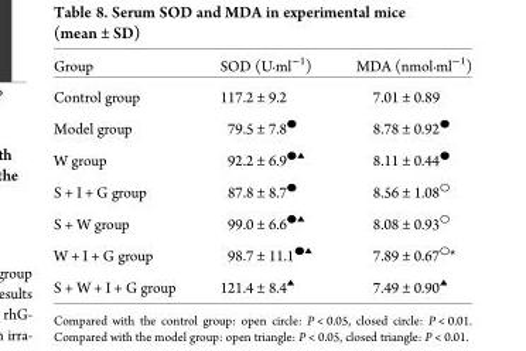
<table><thead><tr><td>Group</td><td>SOD (U·ml<sup>−1</sup>)</td><td>MDA (nmol·ml<sup>−1</sup>)</td></tr></thead><tbody><tr><td>Control group</td><td>117.2 ± 9.2</td><td>7.01 ± 0.89</td></tr><tr><td>Model group</td><td>79.5 ± 7.8<sup>●</sup></td><td>8.78 ± 0.92<sup>●</sup></td></tr><tr><td>W group</td><td>92.2 ± 6.9●▴</td><td>8.11 ± 0.44<sup>●</sup></td></tr><tr><td>S + I + G group</td><td>87.8 ± 8.7<sup>●</sup></td><td>8.56 ± 1.08<sup>○</sup></td></tr><tr><td>S + W group</td><td>99.0 ± 6.6●▴</td><td>8.08 ± 0.93<sup>○</sup></td></tr><tr><td>W + I + G group</td><td>98.7 ± 11.1●▴</td><td>7.89 ± 0.67<sup>○</sup>*</td></tr><tr><td>S + W + I + G group</td><td>121.4 ± 8.4▴</td><td>7.49 ± 0.90▴</td></tr></tbody></table>